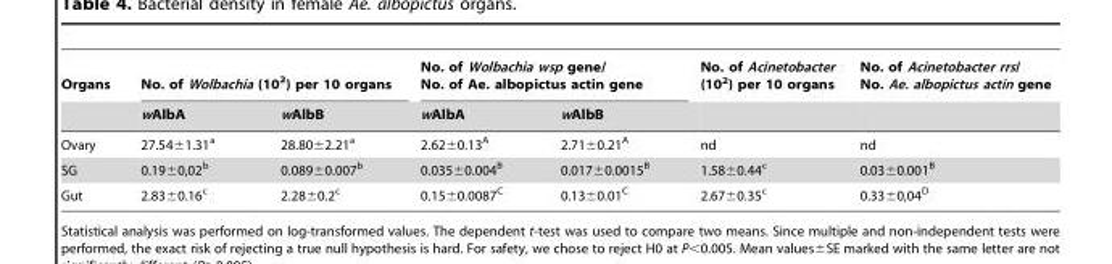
<table><thead><tr><td rowspan="2">Organs</td><td colspan="2">No. of Wolbachia (10<sup>2</sup>) per 10 organs</td><td colspan="2">No. of Wolbachia wsp gene/ No. of Ae. albopictus actin gene</td><td rowspan="2">No. of Acinetobacter (10<sup>2</sup>) per 10 organs</td><td rowspan="2">No. of Acinetobacter rrs/ No. Ae. albopictus actin gene</td></tr><tr><td>wAlbA</td><td>wAlbB</td><td>wAlbA</td><td>wAlbB</td></tr></thead><tbody><tr><td>Ovary</td><td>27.54±1.31<sup>a</sup></td><td>28.80±2.21<sup>a</sup></td><td>2.62±0.13<sup>A</sup></td><td>2.71±0.21<sup>A</sup></td><td>nd</td><td>nd</td></tr><tr><td>SG</td><td>0.19±0,02<sup>b</sup></td><td>0.089±0.007<sup>b</sup></td><td>0.035±0.004<sup>B</sup></td><td>0.017±0.0015<sup>B</sup></td><td>1.58±0.44<sup>c</sup></td><td>0.03±0.001<sup>B</sup></td></tr><tr><td>Gut</td><td>2.83±0.16<sup>c</sup></td><td>2.28±0.2<sup>c</sup></td><td>0.15±0.0087<sup>C</sup></td><td>0.13±0.01<sup>C</sup></td><td>2.67±0.35<sup>c</sup></td><td>0.33±0,04<sup>D</sup></td></tr></tbody></table>